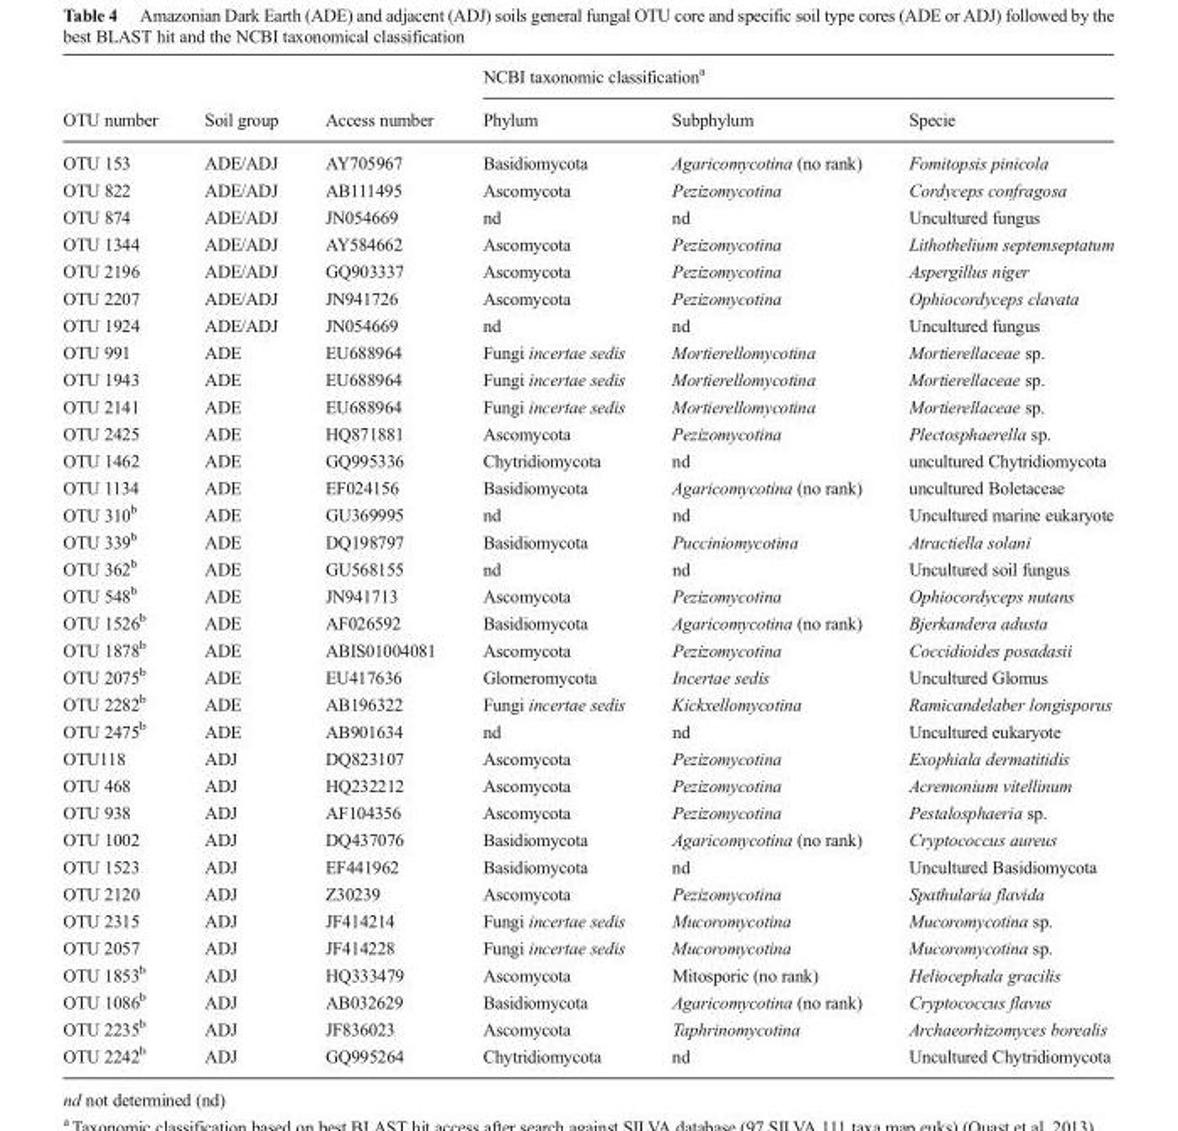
<table><thead><tr><td rowspan="2">OTU number</td><td rowspan="2">Soil group</td><td rowspan="2">Access number</td><td colspan="3">NCBI taxonomic classification<sup>a</sup></td></tr><tr><td>Phylum</td><td>Subphylum</td><td>Specie</td></tr></thead><tbody><tr><td>OTU 153</td><td>ADE/ADJ</td><td>AY705967</td><td>Basidiomycota</td><td>Agaricomycotina (no rank)</td><td>Fomitopsis pinicola</td></tr><tr><td>OTU 822</td><td>ADE/ADJ</td><td>AB111495</td><td>Ascomycota</td><td>Pezizomycotina</td><td>Cordyceps confragosa</td></tr><tr><td>OTU 874</td><td>ADE/ADJ</td><td>JN054669</td><td>nd</td><td>nd</td><td>Uncultured fungus</td></tr><tr><td>OTU 1344</td><td>ADE/ADJ</td><td>AY584662</td><td>Ascomycota</td><td>Pezizomycotina</td><td>Lithothelium septemseptatum</td></tr><tr><td>OTU 2196</td><td>ADE/ADJ</td><td>GQ903337</td><td>Ascomycota</td><td>Pezizomycotina</td><td>Aspergillus niger</td></tr><tr><td>OTU 2207</td><td>ADE/ADJ</td><td>JN941726</td><td>Ascomycota</td><td>Pezizomycotina</td><td>Ophiocordyceps clavata</td></tr><tr><td>OTU 1924</td><td>ADE/ADJ</td><td>JN054669</td><td>nd</td><td>nd</td><td>Uncultured fungus</td></tr><tr><td>OTU 991</td><td>ADE</td><td>EU688964</td><td>Fungi incertae sedis</td><td>Mortierellomycotina</td><td>Mortierellaceae sp.</td></tr><tr><td>OTU 1943</td><td>ADE</td><td>EU688964</td><td>Fungi incertae sedis</td><td>Mortierellomycotina</td><td>Mortierellaceae sp.</td></tr><tr><td>OTU 2141</td><td>ADE</td><td>EU688964</td><td>Fungi incertae sedis</td><td>Mortierellomycotina</td><td>Mortierellaceae sp.</td></tr><tr><td>OTU 2425</td><td>ADE</td><td>HQ871881</td><td>Ascomycota</td><td>Pezizomycotina</td><td>Plectosphaerella sp.</td></tr><tr><td>OTU 1462</td><td>ADE</td><td>GQ995336</td><td>Chytridiomycota</td><td>nd</td><td>uncultured Chytridiomycota</td></tr><tr><td>OTU 1134</td><td>ADE</td><td>EF024156</td><td>Basidiomycota</td><td>Agaricomycotina (no rank)</td><td>uncultured Boletaceae</td></tr><tr><td>OTU 310<sup>b</sup></td><td>ADE</td><td>GU369995</td><td>nd</td><td>nd</td><td>Uncultured marine eukaryote</td></tr><tr><td>OTU 339<sup>b</sup></td><td>ADE</td><td>DQ198797</td><td>Basidiomycota</td><td>Pucciniomycotina</td><td>Atractiella solani</td></tr><tr><td>OTU 362<sup>b</sup></td><td>ADE</td><td>GU568155</td><td>nd</td><td>nd</td><td>Uncultured soil fungus</td></tr><tr><td>OTU 548<sup>b</sup></td><td>ADE</td><td>JN941713</td><td>Ascomycota</td><td>Pezizomycotina</td><td>Ophiocordyceps nutans</td></tr><tr><td>OTU 1526<sup>b</sup></td><td>ADE</td><td>AF026592</td><td>Basidiomycota</td><td>Agaricomycotina (no rank)</td><td>Bjerkandera adusta</td></tr><tr><td>OTU 1878<sup>b</sup></td><td>ADE</td><td>ABIS01004081</td><td>Ascomycota</td><td>Pezizomycotina</td><td>Coccidioides posadasii</td></tr><tr><td>OTU 2075<sup>b</sup></td><td>ADE</td><td>EU417636</td><td>Glomeromycota</td><td>Incertae sedis</td><td>Uncultured Glomus</td></tr><tr><td>OTU 2282<sup>b</sup></td><td>ADE</td><td>AB196322</td><td>Fungi incertae sedis</td><td>Kickxellomycotina</td><td>Ramicandelaber longisporus</td></tr><tr><td>OTU 2475<sup>b</sup></td><td>ADE</td><td>AB901634</td><td>nd</td><td>nd</td><td>Uncultured eukaryote</td></tr><tr><td>OTU118</td><td>ADJ</td><td>DQ823107</td><td>Ascomycota</td><td>Pezizomycotina</td><td>Exophiala dermatitidis</td></tr><tr><td>OTU 468</td><td>ADJ</td><td>HQ232212</td><td>Ascomycota</td><td>Pezizomycotina</td><td>Acremonium vitellinum</td></tr><tr><td>OTU 938</td><td>ADJ</td><td>AF104356</td><td>Ascomycota</td><td>Pezizomycotina</td><td>Pestalosphaeria sp.</td></tr><tr><td>OTU 1002</td><td>ADJ</td><td>DQ437076</td><td>Basidiomycota</td><td>Agaricomycotina (no rank)</td><td>Cryptococcus aureus</td></tr><tr><td>OTU 1523</td><td>ADJ</td><td>EF441962</td><td>Basidiomycota</td><td>nd</td><td>Uncultured Basidiomycota</td></tr><tr><td>OTU 2120</td><td>ADJ</td><td>Z30239</td><td>Ascomycota</td><td>Pezizomycotina</td><td>Spathularia flavida</td></tr><tr><td>OTU 2315</td><td>ADJ</td><td>JF414214</td><td>Fungi incertae sedis</td><td>Mucoromycotina</td><td>Mucoromycotina sp.</td></tr><tr><td>OTU 2057</td><td>ADJ</td><td>JF414228</td><td>Fungi incertae sedis</td><td>Mucoromycotina</td><td>Mucoromycotina sp.</td></tr><tr><td>OTU 1853<sup>b</sup></td><td>ADJ</td><td>HQ333479</td><td>Ascomycota</td><td>Mitosporic (no rank)</td><td>Heliocephala gracilis</td></tr><tr><td>OTU 1086<sup>b</sup></td><td>ADJ</td><td>AB032629</td><td>Basidiomycota</td><td>Agaricomycotina (no rank)</td><td>Cryptococcus flavus</td></tr><tr><td>OTU 2235<sup>b</sup></td><td>ADJ</td><td>JF836023</td><td>Ascomycota</td><td>Taphrinomycotina</td><td>Archaeorhizomyces borealis</td></tr><tr><td>OTU 2242<sup>b</sup></td><td>ADJ</td><td>GQ995264</td><td>Chytridiomycota</td><td>nd</td><td>Uncultured Chytridiomycota</td></tr></tbody></table>